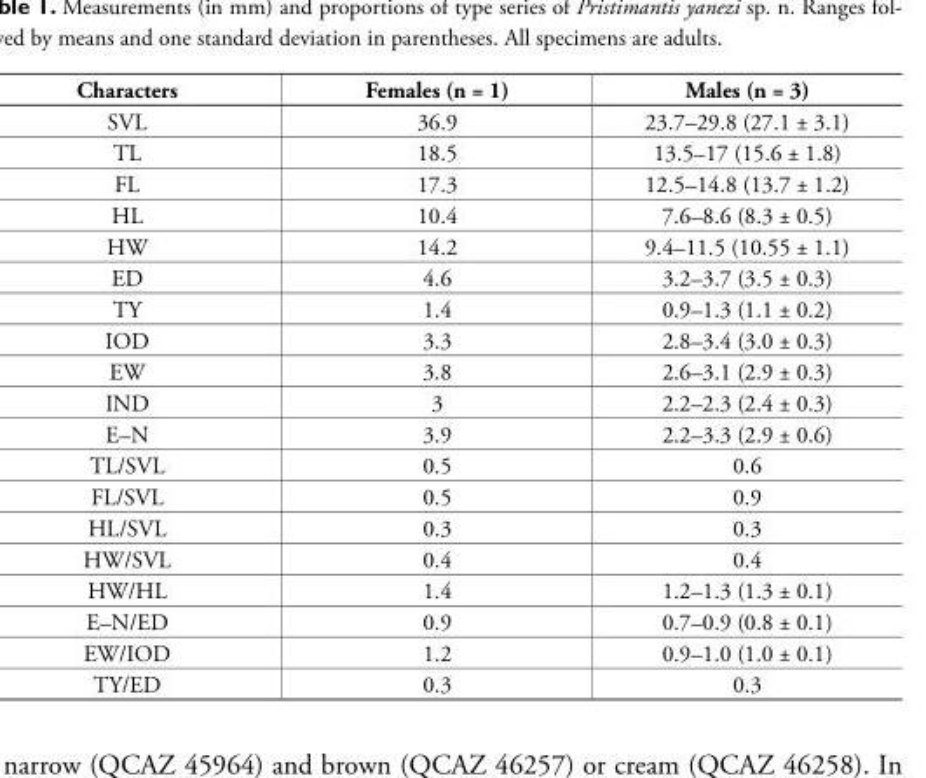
<table><thead><tr><td>Characters</td><td>Females (n = 1)</td><td>Males (n = 3)</td></tr></thead><tbody><tr><td>SVL</td><td>36.9</td><td>23.7–29.8 (27.1 ± 3.1)</td></tr><tr><td>TL</td><td>18.5</td><td>13.5–17 (15.6 ± 1.8)</td></tr><tr><td>FL</td><td>17.3</td><td>12.5–14.8 (13.7 ± 1.2)</td></tr><tr><td>HL</td><td>10.4</td><td>7.6–8.6 (8.3 ± 0.5)</td></tr><tr><td>HW</td><td>14.2</td><td>9.4–11.5 (10.55 ± 1.1)</td></tr><tr><td>ED</td><td>4.6</td><td>3.2–3.7 (3.5 ± 0.3)</td></tr><tr><td>TY</td><td>1.4</td><td>0.9–1.3 (1.1 ± 0.2)</td></tr><tr><td>IOD</td><td>3.3</td><td>2.8–3.4 (3.0 ± 0.3)</td></tr><tr><td>EW</td><td>3.8</td><td>2.6–3.1 (2.9 ± 0.3)</td></tr><tr><td>IND</td><td>3</td><td>2.2–2.3 (2.4 ± 0.3)</td></tr><tr><td>E–N</td><td>3.9</td><td>2.2–3.3 (2.9 ± 0.6)</td></tr><tr><td>TL/SVL</td><td>0.5</td><td>0.6</td></tr><tr><td>FL/SVL</td><td>0.5</td><td>0.9</td></tr><tr><td>HL/SVL</td><td>0.3</td><td>0.3</td></tr><tr><td>HW/SVL</td><td>0.4</td><td>0.4</td></tr><tr><td>HW/HL</td><td>1.4</td><td>1.2–1.3 (1.3 ± 0.1)</td></tr><tr><td>E–N/ED</td><td>0.9</td><td>0.7–0.9 (0.8 ± 0.1)</td></tr><tr><td>EW/IOD</td><td>1.2</td><td>0.9–1.0 (1.0 ± 0.1)</td></tr><tr><td>TY/ED</td><td>0.3</td><td>0.3</td></tr></tbody></table>